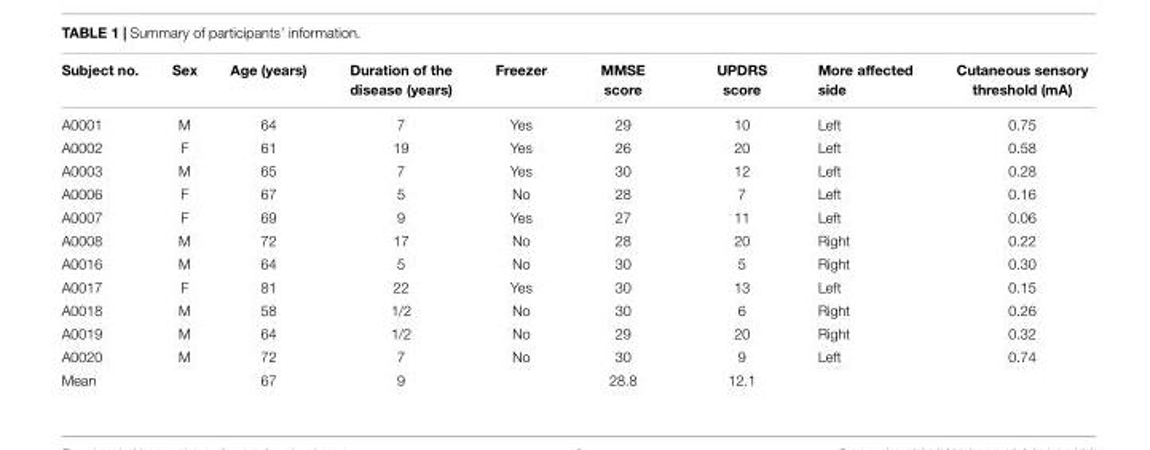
<table><thead><tr><td>Subject no.</td><td>Sex</td><td>Age (years)</td><td>Duration of the disease (years)</td><td>Freezer</td><td>MMSE score</td><td>UPDRS score</td><td>More affected side</td><td>Cutaneous sensory threshold (mA)</td></tr></thead><tbody><tr><td>A0001</td><td>M</td><td>64</td><td>7</td><td>Yes</td><td>29</td><td>10</td><td>Left</td><td>0.75</td></tr><tr><td>A0002</td><td>F</td><td>61</td><td>19</td><td>Yes</td><td>26</td><td>20</td><td>Left</td><td>0.58</td></tr><tr><td>A0003</td><td>M</td><td>65</td><td>7</td><td>Yes</td><td>30</td><td>12</td><td>Left</td><td>0.28</td></tr><tr><td>A0006</td><td>F</td><td>67</td><td>5</td><td>No</td><td>28</td><td>7</td><td>Left</td><td>0.16</td></tr><tr><td>A0007</td><td>F</td><td>69</td><td>9</td><td>Yes</td><td>27</td><td>11</td><td>Left</td><td>0.06</td></tr><tr><td>A0008</td><td>M</td><td>72</td><td>17</td><td>No</td><td>28</td><td>20</td><td>Right</td><td>0.22</td></tr><tr><td>A0016</td><td>M</td><td>64</td><td>5</td><td>No</td><td>30</td><td>5</td><td>Right</td><td>0.30</td></tr><tr><td>A0017</td><td>F</td><td>81</td><td>22</td><td>Yes</td><td>30</td><td>13</td><td>Left</td><td>0.15</td></tr><tr><td>A0018</td><td>M</td><td>58</td><td>1/2</td><td>No</td><td>30</td><td>6</td><td>Right</td><td>0.26</td></tr><tr><td>A0019</td><td>M</td><td>64</td><td>1/2</td><td>No</td><td>29</td><td>20</td><td>Right</td><td>0.32</td></tr><tr><td>A0020</td><td>M</td><td>72</td><td>7</td><td>No</td><td>30</td><td>9</td><td>Left</td><td>0.74</td></tr><tr><td>Mean</td><td></td><td>67</td><td>9</td><td></td><td>28.8</td><td>12.1</td><td></td><td></td></tr></tbody></table>